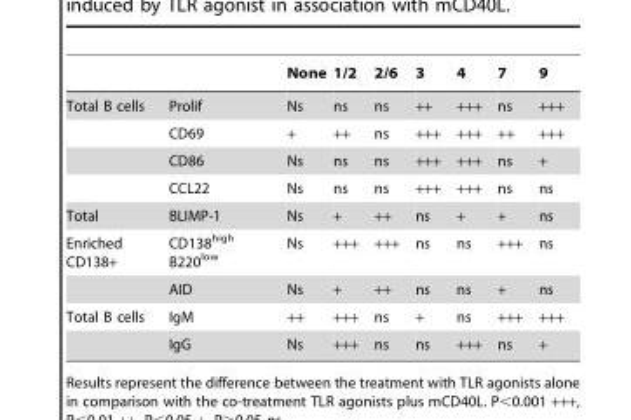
<table><thead><tr><td></td><td></td><td>None</td><td>1/2</td><td>2/6</td><td>3</td><td>4</td><td>7</td><td>9</td></tr></thead><tbody><tr><td rowspan="4">Total B cells</td><td>Prolif</td><td>Ns</td><td>ns</td><td>ns</td><td>++</td><td>+++</td><td>ns</td><td>+++</td></tr><tr><td>CD69</td><td>+</td><td>++</td><td>ns</td><td>+++</td><td>+++</td><td>++</td><td>+++</td></tr><tr><td>CD86</td><td>Ns</td><td>ns</td><td>ns</td><td>+++</td><td>+++</td><td>ns</td><td>+</td></tr><tr><td>CCL22</td><td>Ns</td><td>ns</td><td>ns</td><td>+++</td><td>+++</td><td>ns</td><td>ns</td></tr><tr><td>Total</td><td>BLIMP-1</td><td>Ns</td><td>+</td><td>++</td><td>ns</td><td>+</td><td>+</td><td>ns</td></tr><tr><td rowspan="2">Enriched CD138+</td><td>CD138<sup>high</sup> B220<sup>low</sup></td><td>Ns</td><td>+++</td><td>+++</td><td>ns</td><td>ns</td><td>+++</td><td>ns</td></tr><tr><td>AID</td><td>Ns</td><td>+</td><td>++</td><td>ns</td><td>ns</td><td>+</td><td>ns</td></tr><tr><td rowspan="2">Total B cells</td><td>IgM</td><td>++</td><td>+++</td><td>ns</td><td>+</td><td>ns</td><td>+++</td><td>+++</td></tr><tr><td>IgG</td><td>Ns</td><td>+++</td><td>ns</td><td>ns</td><td>+++</td><td>ns</td><td>+</td></tr></tbody></table>